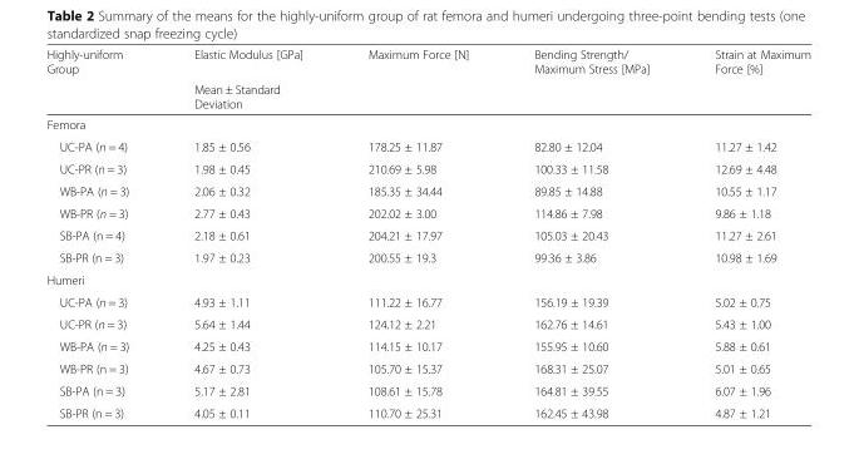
<table><thead><tr><td rowspan="2">Highly-uniform Group</td><td>Elastic Modulus [GPa]</td><td>Maximum Force [N]</td><td>Bending Strength/ Maximum Stress [MPa]</td><td>Strain at Maximum Force [%]</td></tr><tr><td colspan="4">Mean ± Standard Deviation</td></tr></thead><tbody><tr><td colspan="5">Femora</td></tr><tr><td>UC-PA (n = 4)</td><td>1.85 ± 0.56</td><td>178.25 ± 11.87</td><td>82.80 ± 12.04</td><td>11.27 ± 1.42</td></tr><tr><td>UC-PR (n = 3)</td><td>1.98 ± 0.45</td><td>210.69 ± 5.98</td><td>100.33 ± 11.58</td><td>12.69 ± 4.48</td></tr><tr><td>WB-PA (n = 3)</td><td>2.06 ± 0.32</td><td>185.35 ± 34.44</td><td>89.85 ± 14.88</td><td>10.55 ± 1.17</td></tr><tr><td>WB-PR (n = 3)</td><td>2.77 ± 0.43</td><td>202.02 ± 3.00</td><td>114.86 ± 7.98</td><td>9.86 ± 1.18</td></tr><tr><td>SB-PA (n = 4)</td><td>2.18 ± 0.61</td><td>204.21 ± 17.97</td><td>105.03 ± 20.43</td><td>11.27 ± 2.61</td></tr><tr><td>SB-PR (n = 3)</td><td>1.97 ± 0.23</td><td>200.55 ± 19.3</td><td>99.36 ± 3.86</td><td>10.98 ± 1.69</td></tr><tr><td colspan="5">Humeri</td></tr><tr><td>UC-PA (n = 3)</td><td>4.93 ± 1.11</td><td>111.22 ± 16.77</td><td>156.19 ± 19.39</td><td>5.02 ± 0.75</td></tr><tr><td>UC-PR (n = 3)</td><td>5.64 ± 1.44</td><td>124.12 ± 2.21</td><td>162.76 ± 14.61</td><td>5.43 ± 1.00</td></tr><tr><td>WB-PA (n = 3)</td><td>4.25 ± 0.43</td><td>114.15 ± 10.17</td><td>155.95 ± 10.60</td><td>5.88 ± 0.61</td></tr><tr><td>WB-PR (n = 3)</td><td>4.67 ± 0.73</td><td>105.70 ± 15.37</td><td>168.31 ± 25.07</td><td>5.01 ± 0.65</td></tr><tr><td>SB-PA (n = 3)</td><td>5.17 ± 2.81</td><td>108.61 ± 15.78</td><td>164.81 ± 39.55</td><td>6.07 ± 1.96</td></tr><tr><td>SB-PR (n = 3)</td><td>4.05 ± 0.11</td><td>110.70 ± 25.31</td><td>162.45 ± 43.98</td><td>4.87 ± 1.21</td></tr></tbody></table>